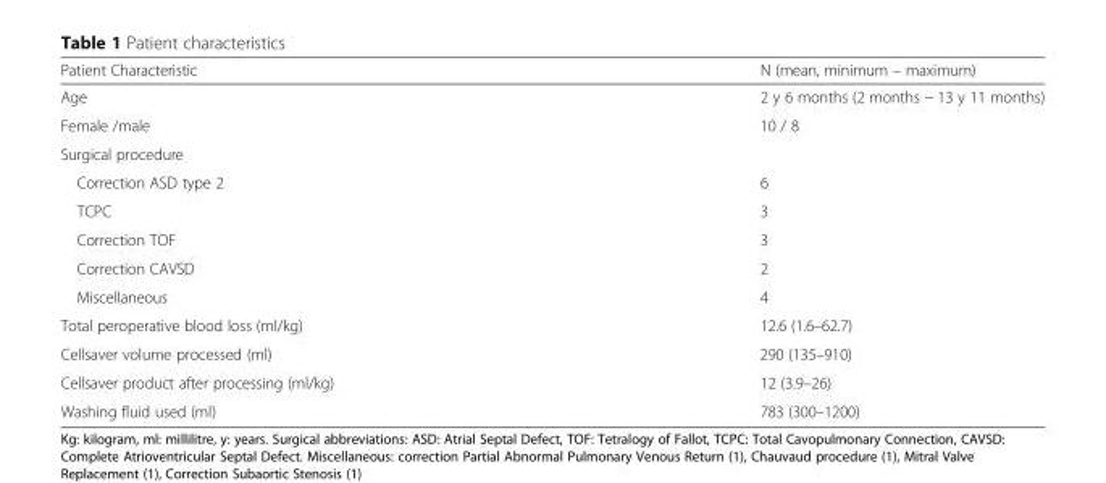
<table><thead><tr><td>Patient Characteristic</td><td>N (mean, minimum – maximum)</td></tr></thead><tbody><tr><td>Age</td><td>2 y 6 months (2 months − 13 y 11 months)</td></tr><tr><td>Female /male</td><td>10 / 8</td></tr><tr><td colspan="2">Surgical procedure</td></tr><tr><td>Correction ASD type 2</td><td>6</td></tr><tr><td>TCPC</td><td>3</td></tr><tr><td>Correction TOF</td><td>3</td></tr><tr><td>Correction CAVSD</td><td>2</td></tr><tr><td>Miscellaneous</td><td>4</td></tr><tr><td>Total peroperative blood loss (ml/kg)</td><td>12.6 (1.6–62.7)</td></tr><tr><td>Cellsaver volume processed (ml)</td><td>290 (135–910)</td></tr><tr><td>Cellsaver product after processing (ml/kg)</td><td>12 (3.9–26)</td></tr><tr><td>Washing fluid used (ml)</td><td>783 (300–1200)</td></tr></tbody></table>